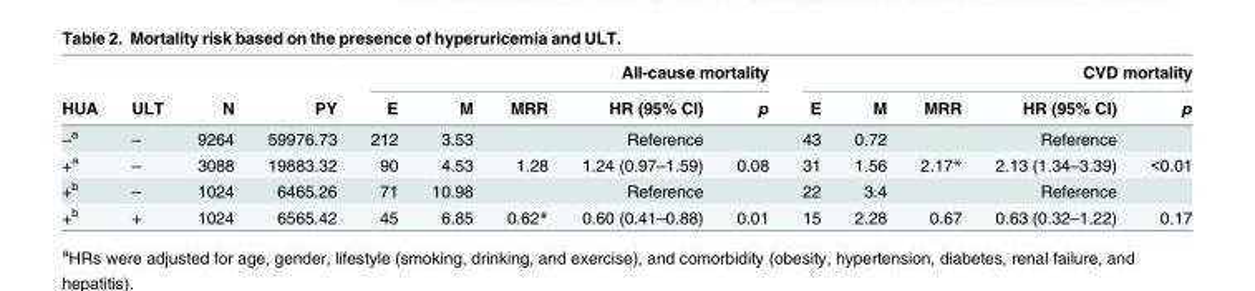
<table><thead><tr><td rowspan="2">HUA</td><td rowspan="2">ULT</td><td rowspan="2">N</td><td rowspan="2">PY</td><td colspan="5">All-cause mortality</td><td colspan="5">CVD mortality</td></tr><tr><td>E</td><td>M</td><td>MRR</td><td>HR (95% CI)</td><td>p</td><td>E</td><td>M</td><td>MRR</td><td>HR (95% CI)</td><td>p</td></tr></thead><tbody><tr><td>–<sup>a</sup></td><td>–</td><td>9264</td><td>59976.73</td><td>212</td><td>3.53</td><td></td><td>Reference</td><td></td><td>43</td><td>0.72</td><td></td><td>Reference</td><td></td></tr><tr><td>+<sup>a</sup></td><td>–</td><td>3088</td><td>19883.32</td><td>90</td><td>4.53</td><td>1.28</td><td>1.24 (0.97–1.59)</td><td>0.08</td><td>31</td><td>1.56</td><td>2.17*</td><td>2.13 (1.34–3.39)</td><td>&lt;0.01</td></tr><tr><td>+<sup>b</sup></td><td>–</td><td>1024</td><td>6465.26</td><td>71</td><td>10.98</td><td></td><td>Reference</td><td></td><td>22</td><td>3.4</td><td></td><td>Reference</td><td></td></tr><tr><td>+<sup>b</sup></td><td>+</td><td>1024</td><td>6565.42</td><td>45</td><td>6.85</td><td>0.62*</td><td>0.60 (0.41–0.88)</td><td>0.01</td><td>15</td><td>2.28</td><td>0.67</td><td>0.63 (0.32–1.22)</td><td>0.17</td></tr></tbody></table>